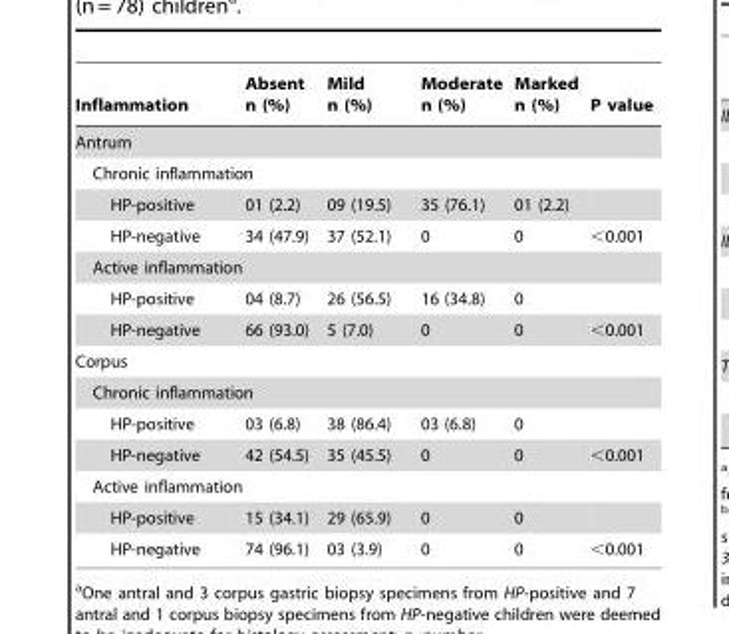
<table><thead><tr><td>Inflammation</td><td>Absent n (%)</td><td>Mild n (%)</td><td>Moderate n (%)</td><td>Marked n (%)</td><td>P value</td></tr></thead><tbody><tr><td colspan="6">Antrum</td></tr><tr><td colspan="6">Chronic inflammation</td></tr><tr><td>HP-positive</td><td>01 (2.2)</td><td>09 (19.5)</td><td>35 (76.1)</td><td>01 (2.2)</td><td></td></tr><tr><td>HP-negative</td><td>34 (47.9)</td><td>37 (52.1)</td><td>0</td><td>0</td><td>&lt;0.001</td></tr><tr><td colspan="6">Active inflammation</td></tr><tr><td>HP-positive</td><td>04 (8.7)</td><td>26 (56.5)</td><td>16 (34.8)</td><td>0</td><td></td></tr><tr><td>HP-negative</td><td>66 (93.0)</td><td>5 (7.0)</td><td>0</td><td>0</td><td>&lt;0.001</td></tr><tr><td colspan="6">Corpus</td></tr><tr><td colspan="6">Chronic inflammation</td></tr><tr><td>HP-positive</td><td>03 (6.8)</td><td>38 (86.4)</td><td>03 (6.8)</td><td>0</td><td></td></tr><tr><td>HP-negative</td><td>42 (54.5)</td><td>35 (45.5)</td><td>0</td><td>0</td><td>&lt;0.001</td></tr><tr><td colspan="6">Active inflammation</td></tr><tr><td>HP-positive</td><td>15 (34.1)</td><td>29 (65.9)</td><td>0</td><td>0</td><td></td></tr><tr><td>HP-negative</td><td>74 (96.1)</td><td>03 (3.9)</td><td>0</td><td>0</td><td>&lt;0.001</td></tr></tbody></table>